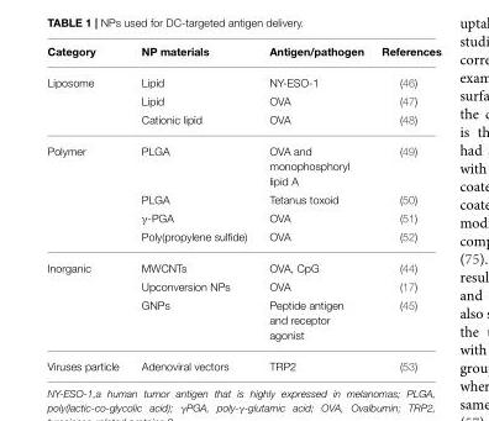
<table><thead><tr><td>Category</td><td>NP materials</td><td>Antigen/pathogen</td><td>References</td></tr></thead><tbody><tr><td rowspan="3">Liposome</td><td>Lipid</td><td>NY-ESO-1</td><td>(46)</td></tr><tr><td>Lipid</td><td>OVA</td><td>(47)</td></tr><tr><td>Cationic lipid</td><td>OVA</td><td>(48)</td></tr><tr><td rowspan="4">Polymer</td><td>PLGA</td><td>OVA and monophosphoryl lipid A</td><td>(49)</td></tr><tr><td>PLGA</td><td>Tetanus toxoid</td><td>(50)</td></tr><tr><td>γ-PGA</td><td>OVA</td><td>(51)</td></tr><tr><td>Poly(propylene sulfide)</td><td>OVA</td><td>(52)</td></tr><tr><td rowspan="3">Inorganic</td><td>MWCNTs</td><td>OVA, CpG</td><td>(44)</td></tr><tr><td>Upconversion NPs</td><td>OVA</td><td>(17)</td></tr><tr><td>GNPs</td><td>Peptide antigen and receptor agonist</td><td>(45)</td></tr><tr><td>Viruses particle</td><td>Adenoviral vectors</td><td>TRP2</td><td>(53)</td></tr></tbody></table>